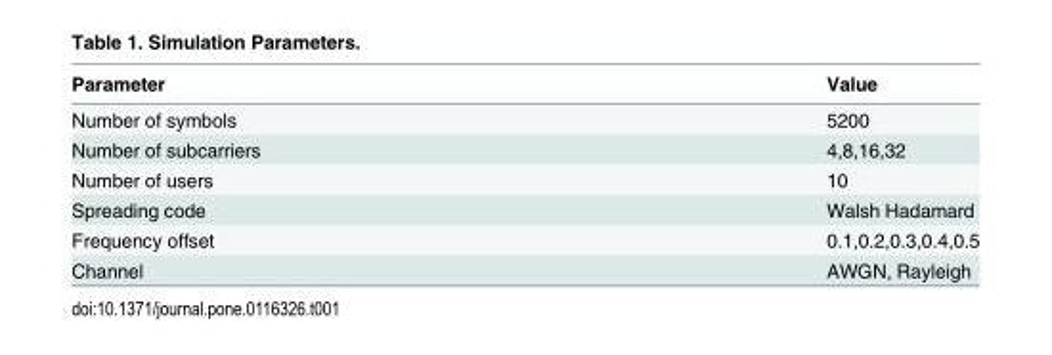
<table><thead><tr><td>Parameter</td><td>Value</td></tr></thead><tbody><tr><td>Number of symbols</td><td>5200</td></tr><tr><td>Number of subcarriers</td><td>4,8,16,32</td></tr><tr><td>Number of users</td><td>10</td></tr><tr><td>Spreading code</td><td>Walsh Hadamard</td></tr><tr><td>Frequency offset</td><td>0.1,0.2,0.3,0.4,0.5</td></tr><tr><td>Channel</td><td>AWGN, Rayleigh</td></tr></tbody></table>